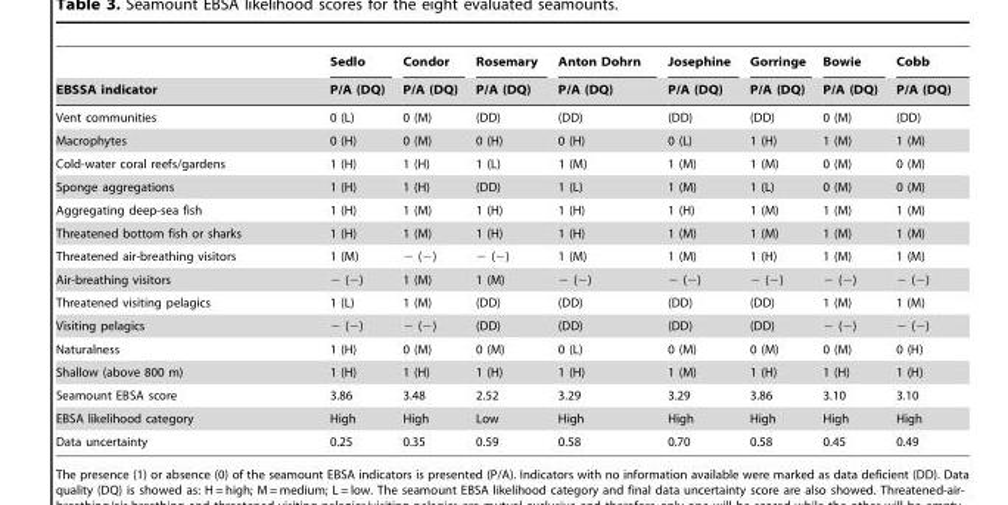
<table><thead><tr><td rowspan="2">EBSSA indicator</td><td rowspan="2">Sedlo P/A (DQ)</td><td rowspan="2">Condor P/A (DQ)</td><td rowspan="2">Rosemary P/A (DQ)</td><td rowspan="2">Anton Dohrn P/A (DQ)</td><td rowspan="2">Josephine P/A (DQ)</td><td rowspan="2">Gorringe P/A (DQ)</td><td rowspan="2">Bowie P/A (DQ)</td><td rowspan="2">Cobb P/A (DQ)</td></tr><tr></tr></thead><tbody><tr><td>Vent communities</td><td>0 (L)</td><td>0 (M)</td><td>(DD)</td><td>(DD)</td><td>(DD)</td><td>(DD)</td><td>0 (M)</td><td>(DD)</td></tr><tr><td>Macrophytes</td><td>0 (H)</td><td>0 (M)</td><td>0 (H)</td><td>0 (H)</td><td>0 (L)</td><td>1 (H)</td><td>1 (M)</td><td>1 (M)</td></tr><tr><td>Cold-water coral reefs/gardens</td><td>1 (H)</td><td>1 (H)</td><td>1 (L)</td><td>1 (M)</td><td>1 (M)</td><td>1 (M)</td><td>0 (M)</td><td>0 (M)</td></tr><tr><td>Sponge aggregations</td><td>1 (H)</td><td>1 (H)</td><td>(DD)</td><td>1 (L)</td><td>1 (M)</td><td>1 (L)</td><td>0 (M)</td><td>0 (M)</td></tr><tr><td>Aggregating deep-sea fish</td><td>1 (H)</td><td>1 (M)</td><td>1 (H)</td><td>1 (H)</td><td>1 (H)</td><td>1 (M)</td><td>1 (M)</td><td>1 (M)</td></tr><tr><td>Threatened bottom fish or sharks</td><td>1 (H)</td><td>1 (M)</td><td>1 (H)</td><td>1 (H)</td><td>1 (M)</td><td>1 (M)</td><td>1 (M)</td><td>1 (M)</td></tr><tr><td>Threatened air-breathing visitors</td><td>1 (M)</td><td>− (−)</td><td>− (−)</td><td>1 (M)</td><td>1 (M)</td><td>1 (H)</td><td>1 (M)</td><td>1 (M)</td></tr><tr><td>Air-breathing visitors</td><td>− (−)</td><td>1 (M)</td><td>1 (M)</td><td>− (−)</td><td>− (−)</td><td>− (−)</td><td>− (−)</td><td>− (−)</td></tr><tr><td>Threatened visiting pelagics</td><td>1 (L)</td><td>1 (M)</td><td>(DD)</td><td>(DD)</td><td>(DD)</td><td>(DD)</td><td>1 (M)</td><td>1 (M)</td></tr><tr><td>Visiting pelagics</td><td>− (−)</td><td>− (−)</td><td>(DD)</td><td>(DD)</td><td>(DD)</td><td>(DD)</td><td>− (−)</td><td>− (−)</td></tr><tr><td>Naturalness</td><td>1 (H)</td><td>0 (M)</td><td>0 (M)</td><td>0 (L)</td><td>0 (M)</td><td>0 (M)</td><td>0 (M)</td><td>0 (H)</td></tr><tr><td>Shallow (above 800 m)</td><td>1 (H)</td><td>1 (H)</td><td>1 (H)</td><td>1 (H)</td><td>1 (M)</td><td>1 (H)</td><td>1 (H)</td><td>1 (H)</td></tr><tr><td>Seamount EBSA score</td><td>3.86</td><td>3.48</td><td>2.52</td><td>3.29</td><td>3.29</td><td>3.86</td><td>3.10</td><td>3.10</td></tr><tr><td>EBSA likelihood category</td><td>High</td><td>High</td><td>Low</td><td>High</td><td>High</td><td>High</td><td>High</td><td>High</td></tr><tr><td>Data uncertainty</td><td>0.25</td><td>0.35</td><td>0.59</td><td>0.58</td><td>0.70</td><td>0.58</td><td>0.45</td><td>0.49</td></tr></tbody></table>